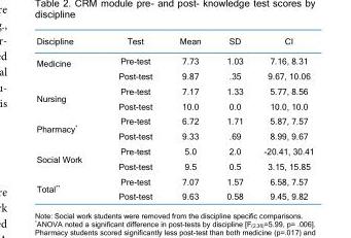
<table><thead><tr><td>Discipline</td><td>Test</td><td>Mean</td><td>SD</td><td>CI</td></tr></thead><tbody><tr><td rowspan="2">Medicine</td><td>Pre-test</td><td>7.73</td><td>1.03</td><td>7.16, 8.31</td></tr><tr><td>Post-test</td><td>9.87</td><td>.35</td><td>9.67, 10.06</td></tr><tr><td rowspan="2">Nursing</td><td>Pre-test</td><td>7.17</td><td>1.33</td><td>5.77, 8.56</td></tr><tr><td>Post-test</td><td>10.0</td><td>0.0</td><td>10.0, 10.0</td></tr><tr><td rowspan="2">Pharmacy*</td><td>Pre-test</td><td>6.72</td><td>1.71</td><td>5.87, 7.57</td></tr><tr><td>Post-test</td><td>9.33</td><td>.69</td><td>8.99, 9.67</td></tr><tr><td rowspan="2">Social Work</td><td>Pre-test</td><td>5.0</td><td>2.0</td><td>-20.41, 30.41</td></tr><tr><td>Post-test</td><td>9.5</td><td>0.5</td><td>3.15, 15.85</td></tr><tr><td rowspan="2">Total**</td><td>Pre-test</td><td>7.07</td><td>1.57</td><td>6.58, 7.57</td></tr><tr><td>Post-test</td><td>9.63</td><td>0.58</td><td>9.45, 9.82</td></tr></tbody></table>